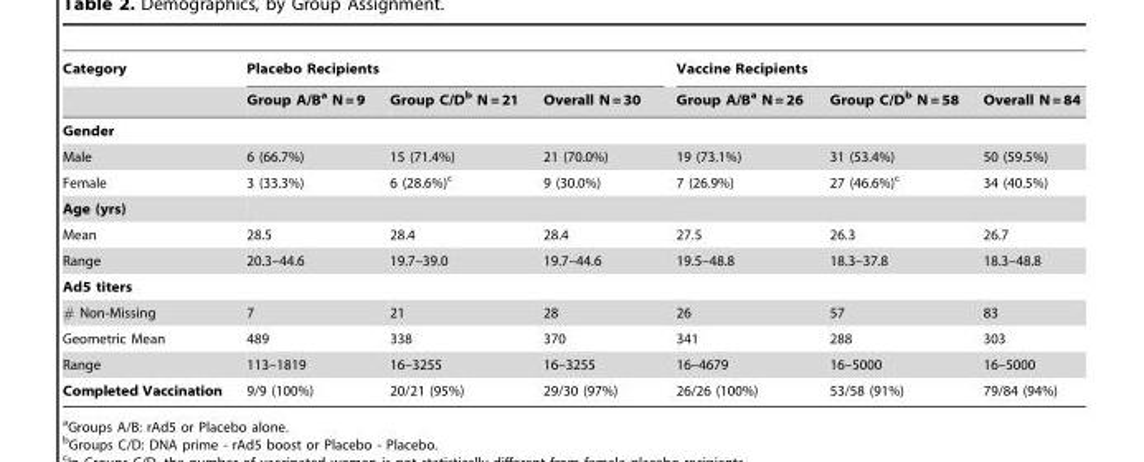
<table><thead><tr><td rowspan="2">Category</td><td colspan="3">Placebo Recipients</td><td colspan="3">Vaccine Recipients</td></tr><tr><td>Group A/B<sup>a</sup> N = 9</td><td>Group C/D<sup>b</sup> N = 21</td><td>Overall N = 30</td><td>Group A/B<sup>a</sup> N = 26</td><td>Group C/D<sup>b</sup> N = 58</td><td>Overall N = 84</td></tr></thead><tbody><tr><td colspan="7">Gender</td></tr><tr><td>Male</td><td>6 (66.7%)</td><td>15 (71.4%)</td><td>21 (70.0%)</td><td>19 (73.1%)</td><td>31 (53.4%)</td><td>50 (59.5%)</td></tr><tr><td>Female</td><td>3 (33.3%)</td><td>6 (28.6%)<sup>c</sup></td><td>9 (30.0%)</td><td>7 (26.9%)</td><td>27 (46.6%)<sup>c</sup></td><td>34 (40.5%)</td></tr><tr><td colspan="7">Age (yrs)</td></tr><tr><td>Mean</td><td>28.5</td><td>28.4</td><td>28.4</td><td>27.5</td><td>26.3</td><td>26.7</td></tr><tr><td>Range</td><td>20.3–44.6</td><td>19.7–39.0</td><td>19.7–44.6</td><td>19.5–48.8</td><td>18.3–37.8</td><td>18.3–48.8</td></tr><tr><td colspan="7">Ad5 titers</td></tr><tr><td># Non-Missing</td><td>7</td><td>21</td><td>28</td><td>26</td><td>57</td><td>83</td></tr><tr><td>Geometric Mean</td><td>489</td><td>338</td><td>370</td><td>341</td><td>288</td><td>303</td></tr><tr><td>Range</td><td>113–1819</td><td>16–3255</td><td>16–3255</td><td>16–4679</td><td>16–5000</td><td>16–5000</td></tr><tr><td>Completed Vaccination</td><td>9/9 (100%)</td><td>20/21 (95%)</td><td>29/30 (97%)</td><td>26/26 (100%)</td><td>53/58 (91%)</td><td>79/84 (94%)</td></tr></tbody></table>